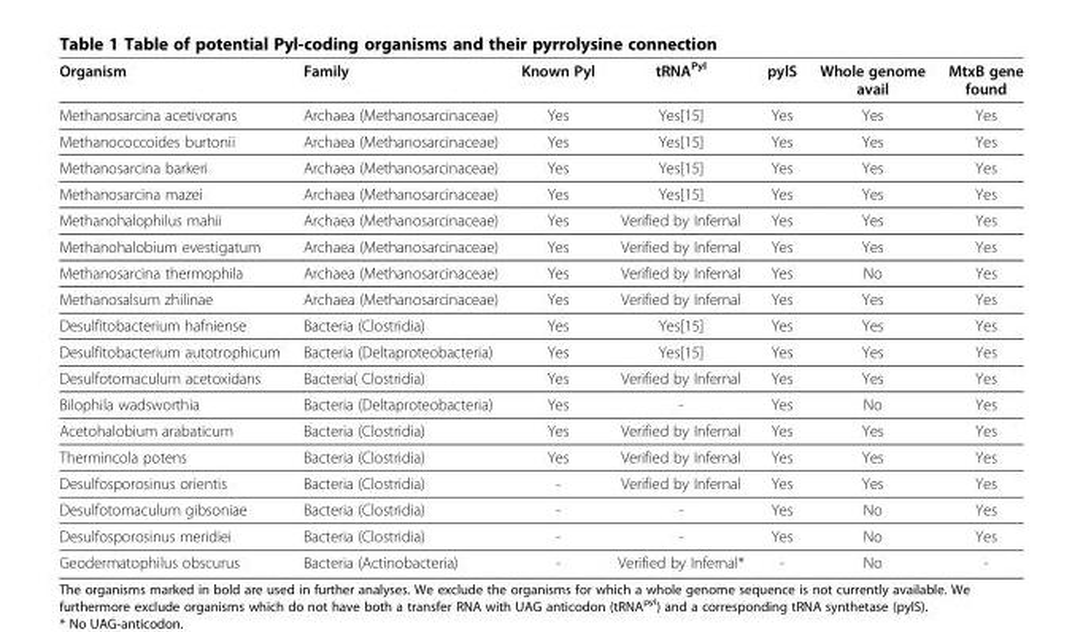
<table><thead><tr><td>Organism</td><td>Family</td><td>Known Pyl</td><td>tRNA<sup>Pyl</sup></td><td>pylS</td><td>Whole genome avail</td><td>MtxB gene found</td></tr></thead><tbody><tr><td>Methanosarcina acetivorans</td><td>Archaea (Methanosarcinaceae)</td><td>Yes</td><td>Yes[15]</td><td>Yes</td><td>Yes</td><td>Yes</td></tr><tr><td>Methanococcoides burtonii</td><td>Archaea (Methanosarcinaceae)</td><td>Yes</td><td>Yes[15]</td><td>Yes</td><td>Yes</td><td>Yes</td></tr><tr><td>Methanosarcina barkeri</td><td>Archaea (Methanosarcinaceae)</td><td>Yes</td><td>Yes[15]</td><td>Yes</td><td>Yes</td><td>Yes</td></tr><tr><td>Methanosarcina mazei</td><td>Archaea (Methanosarcinaceae)</td><td>Yes</td><td>Yes[15]</td><td>Yes</td><td>Yes</td><td>Yes</td></tr><tr><td>Methanohalophilus mahii</td><td>Archaea (Methanosarcinaceae)</td><td>Yes</td><td>Verified by Infernal</td><td>Yes</td><td>Yes</td><td>Yes</td></tr><tr><td>Methanohalobium evestigatum</td><td>Archaea (Methanosarcinaceae)</td><td>Yes</td><td>Verified by Infernal</td><td>Yes</td><td>Yes</td><td>Yes</td></tr><tr><td>Methanosarcina thermophila</td><td>Archaea (Methanosarcinaceae)</td><td>Yes</td><td>Verified by Infernal</td><td>Yes</td><td>No</td><td>Yes</td></tr><tr><td>Methanosalsum zhilinae</td><td>Archaea (Methanosarcinaceae)</td><td>Yes</td><td>Verified by Infernal</td><td>Yes</td><td>Yes</td><td>Yes</td></tr><tr><td>Desulfitobacterium hafniense</td><td>Bacteria (Clostridia)</td><td>Yes</td><td>Yes[15]</td><td>Yes</td><td>Yes</td><td>Yes</td></tr><tr><td>Desulfitobacterium autotrophicum</td><td>Bacteria (Deltaproteobacteria)</td><td>Yes</td><td>Yes[15]</td><td>Yes</td><td>Yes</td><td>Yes</td></tr><tr><td>Desulfotomaculum acetoxidans</td><td>Bacteria( Clostridia)</td><td>Yes</td><td>Verified by Infernal</td><td>Yes</td><td>Yes</td><td>Yes</td></tr><tr><td>Bilophila wadsworthia</td><td>Bacteria (Deltaproteobacteria)</td><td>Yes</td><td>-</td><td>Yes</td><td>No</td><td>Yes</td></tr><tr><td>Acetohalobium arabaticum</td><td>Bacteria (Clostridia)</td><td>Yes</td><td>Verified by Infernal</td><td>Yes</td><td>Yes</td><td>Yes</td></tr><tr><td>Thermincola potens</td><td>Bacteria (Clostridia)</td><td>Yes</td><td>Verified by Infernal</td><td>Yes</td><td>Yes</td><td>Yes</td></tr><tr><td>Desulfosporosinus orientis</td><td>Bacteria (Clostridia)</td><td>-</td><td>Verified by Infernal</td><td>Yes</td><td>Yes</td><td>Yes</td></tr><tr><td>Desulfotomaculum gibsoniae</td><td>Bacteria (Clostridia)</td><td>-</td><td>-</td><td>Yes</td><td>No</td><td>Yes</td></tr><tr><td>Desulfosporosinus meridiei</td><td>Bacteria (Clostridia)</td><td>-</td><td>-</td><td>Yes</td><td>No</td><td>Yes</td></tr><tr><td>Geodermatophilus obscurus</td><td>Bacteria (Actinobacteria)</td><td>-</td><td>Verified by Infernal*</td><td>-</td><td>No</td><td>-</td></tr></tbody></table>